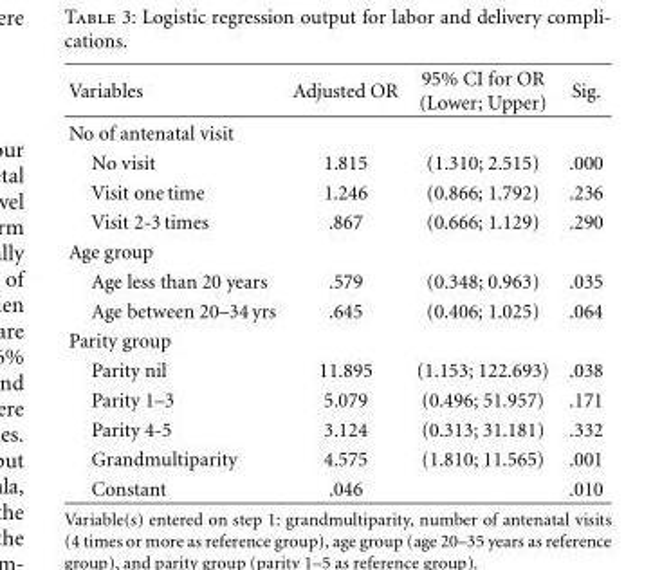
<table><thead><tr><td>Variables</td><td>Adjusted OR</td><td>95% CI for OR (Lower; Upper)</td><td>Sig.</td></tr></thead><tbody><tr><td colspan="4">No of antenatal visit</td></tr><tr><td>No visit</td><td>1.815</td><td>(1.310; 2.515)</td><td>.000</td></tr><tr><td>Visit one time</td><td>1.246</td><td>(0.866; 1.792)</td><td>.236</td></tr><tr><td>Visit 2-3 times</td><td>.867</td><td>(0.666; 1.129)</td><td>.290</td></tr><tr><td colspan="4">Age group</td></tr><tr><td>Age less than 20 years</td><td>.579</td><td>(0.348; 0.963)</td><td>.035</td></tr><tr><td>Age between 20–34 yrs</td><td>.645</td><td>(0.406; 1.025)</td><td>.064</td></tr><tr><td colspan="4">Parity group</td></tr><tr><td>Parity nil</td><td>11.895</td><td>(1.153; 122.693)</td><td>.038</td></tr><tr><td>Parity 1–3</td><td>5.079</td><td>(0.496; 51.957)</td><td>.171</td></tr><tr><td>Parity 4-5</td><td>3.124</td><td>(0.313; 31.181)</td><td>.332</td></tr><tr><td>Grandmultiparity</td><td>4.575</td><td>(1.810; 11.565)</td><td>.001</td></tr><tr><td>Constant</td><td>.046</td><td></td><td>.010</td></tr></tbody></table>